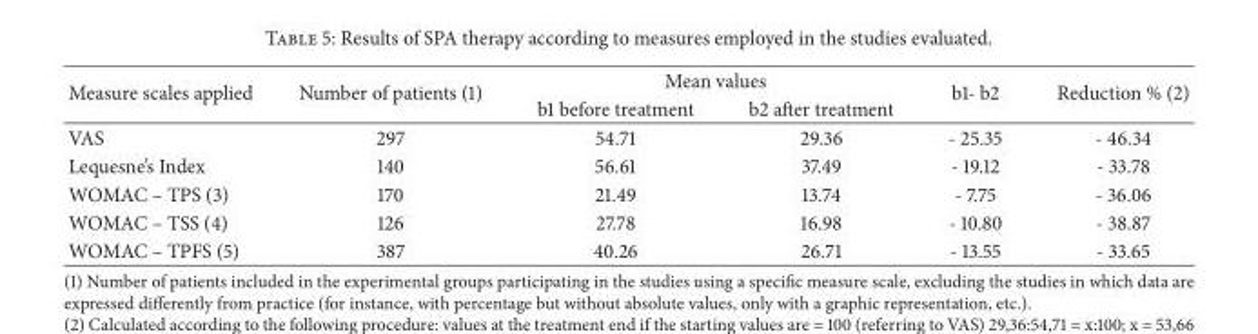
<table><thead><tr><td rowspan="2">Measure scales applied</td><td rowspan="2">Number of patients (1)</td><td colspan="2">Mean values</td><td rowspan="2">b1- b2</td><td rowspan="2">Reduction % (2)</td></tr><tr><td>b1 before treatment</td><td>b2 after treatment</td></tr></thead><tbody><tr><td>VAS</td><td>297</td><td>54.71</td><td>29.36</td><td>- 25.35</td><td>- 46.34</td></tr><tr><td>Lequesne’s Index</td><td>140</td><td>56.61</td><td>37.49</td><td>- 19.12</td><td>- 33.78</td></tr><tr><td>WOMAC – TPS (3)</td><td>170</td><td>21.49</td><td>13.74</td><td>- 7.75</td><td>- 36.06</td></tr><tr><td>WOMAC – TSS (4)</td><td>126</td><td>27.78</td><td>16.98</td><td>- 10.80</td><td>- 38.87</td></tr><tr><td>WOMAC – TPFS (5)</td><td>387</td><td>40.26</td><td>26.71</td><td>- 13.55</td><td>- 33.65</td></tr></tbody></table>